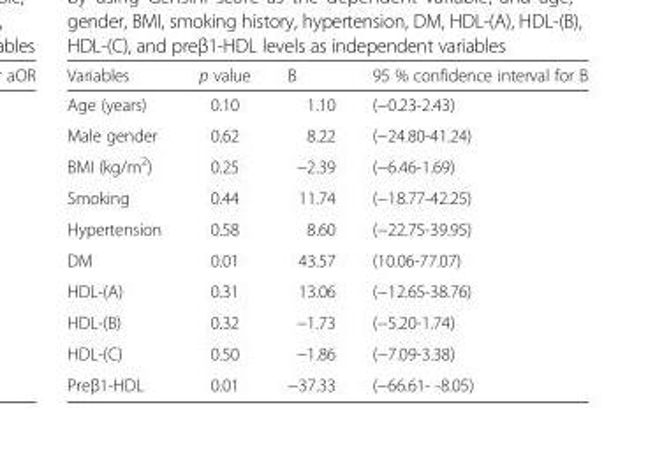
<table><thead><tr><td>Variables</td><td>p value</td><td>B</td><td>95 % confidence interval for B</td></tr></thead><tbody><tr><td>Age (years)</td><td>0.10</td><td>1.10</td><td>(−0.23-2.43)</td></tr><tr><td>Male gender</td><td>0.62</td><td>8.22</td><td>(−24.80-41.24)</td></tr><tr><td>BMI (kg/m<sup>2</sup>)</td><td>0.25</td><td>−2.39</td><td>(−6.46-1.69)</td></tr><tr><td>Smoking</td><td>0.44</td><td>11.74</td><td>(−18.77-42.25)</td></tr><tr><td>Hypertension</td><td>0.58</td><td>8.60</td><td>(−22.75-39.95)</td></tr><tr><td>DM</td><td>0.01</td><td>43.57</td><td>(10.06-77.07)</td></tr><tr><td>HDL-(A)</td><td>0.31</td><td>13.06</td><td>(−12.65-38.76)</td></tr><tr><td>HDL-(B)</td><td>0.32</td><td>−1.73</td><td>(−5.20-1.74)</td></tr><tr><td>HDL-(C)</td><td>0.50</td><td>−1.86</td><td>(−7.09-3.38)</td></tr><tr><td>Preβ1-HDL</td><td>0.01</td><td>−37.33</td><td>(−66.61- -8.05)</td></tr></tbody></table>